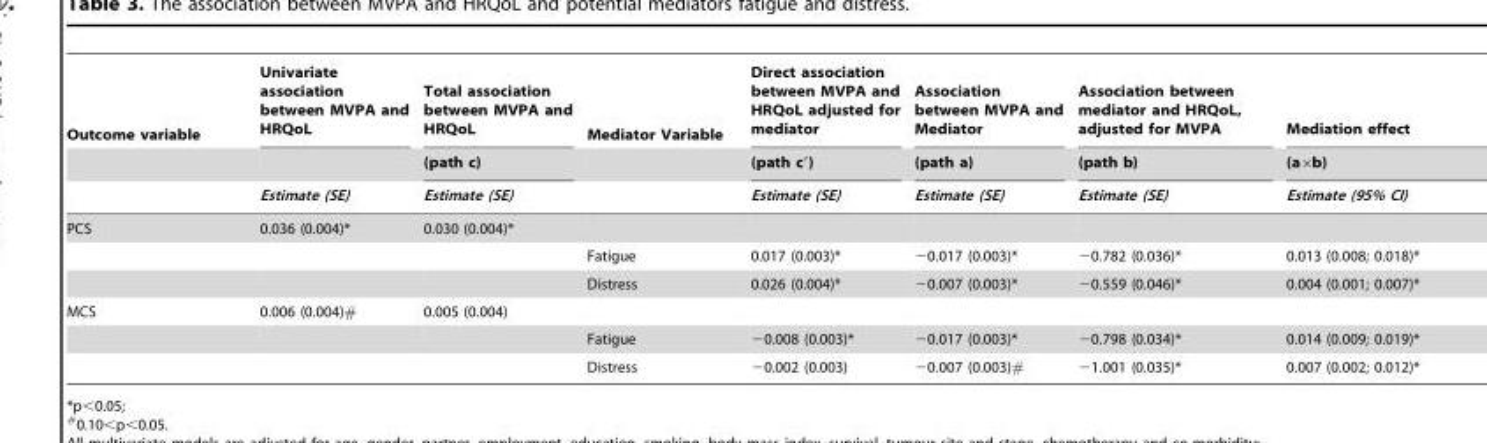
<table><thead><tr><td rowspan="3">Outcome variable</td><td rowspan="3">Univariate association between MVPA and HRQoL Estimate (SE)</td><td rowspan="3">Total association between MVPA and HRQoL (path c) Estimate (SE)</td><td rowspan="3">Mediator Variable</td><td rowspan="3">Direct association between MVPA and HRQoL adjusted for mediator (path c′) Estimate (SE)</td><td rowspan="3">Association between MVPA and Mediator (path a) Estimate (SE)</td><td rowspan="3">Association between mediator and HRQoL, adjusted for MVPA (path b) Estimate (SE)</td><td rowspan="3">Mediation effect (a×b) Estimate (95% CI)</td></tr><tr></tr><tr></tr></thead><tbody><tr><td rowspan="3">PCS</td><td>0.036 (0.004)*</td><td>0.030 (0.004)*</td><td></td><td></td><td></td><td></td><td></td></tr><tr><td></td><td></td><td>Fatigue</td><td>0.017 (0.003)*</td><td>−0.017 (0.003)*</td><td>−0.782 (0.036)*</td><td>0.013 (0.008; 0.018)*</td></tr><tr><td></td><td></td><td>Distress</td><td>0.026 (0.004)*</td><td>−0.007 (0.003)*</td><td>−0.559 (0.046)*</td><td>0.004 (0.001; 0.007)*</td></tr><tr><td rowspan="3">MCS</td><td>0.006 (0.004)#</td><td>0.005 (0.004)</td><td></td><td></td><td></td><td></td><td></td></tr><tr><td></td><td></td><td>Fatigue</td><td>−0.008 (0.003)*</td><td>−0.017 (0.003)*</td><td>−0.798 (0.034)*</td><td>0.014 (0.009; 0.019)*</td></tr><tr><td></td><td></td><td>Distress</td><td>−0.002 (0.003)</td><td>−0.007 (0.003)#</td><td>−1.001 (0.035)*</td><td>0.007 (0.002; 0.012)*</td></tr></tbody></table>